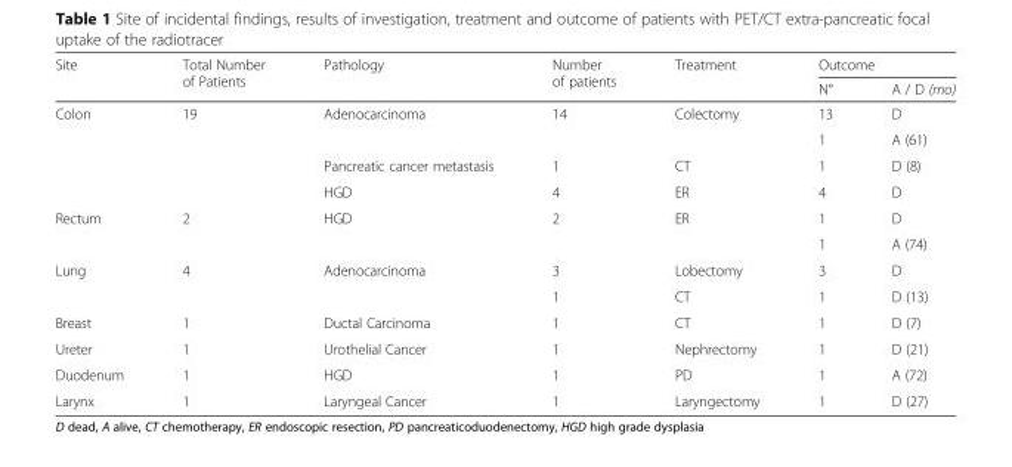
<table><thead><tr><td rowspan="2">Site</td><td rowspan="2">Total Number of Patients</td><td rowspan="2">Pathology</td><td rowspan="2">Number of patients</td><td rowspan="2">Treatment</td><td colspan="2">Outcome</td></tr><tr><td>N°</td><td>A / D (mo)</td></tr></thead><tbody><tr><td rowspan="4">Colon</td><td rowspan="4">19</td><td rowspan="2">Adenocarcinoma</td><td rowspan="2">14</td><td rowspan="2">Colectomy</td><td>13</td><td>D</td></tr><tr><td>1</td><td>A (61)</td></tr><tr><td>Pancreatic cancer metastasis</td><td>1</td><td>CT</td><td>1</td><td>D (8)</td></tr><tr><td>HGD</td><td>4</td><td>ER</td><td>4</td><td>D</td></tr><tr><td rowspan="2">Rectum</td><td rowspan="2">2</td><td rowspan="2">HGD</td><td rowspan="2">2</td><td rowspan="2">ER</td><td>1</td><td>D</td></tr><tr><td>1</td><td>A (74)</td></tr><tr><td rowspan="2">Lung</td><td rowspan="2">4</td><td rowspan="2">Adenocarcinoma</td><td>3</td><td>Lobectomy</td><td>3</td><td>D</td></tr><tr><td>1</td><td>CT</td><td>1</td><td>D (13)</td></tr><tr><td>Breast</td><td>1</td><td>Ductal Carcinoma</td><td>1</td><td>CT</td><td>1</td><td>D (7)</td></tr><tr><td>Ureter</td><td>1</td><td>Urothelial Cancer</td><td>1</td><td>Nephrectomy</td><td>1</td><td>D (21)</td></tr><tr><td>Duodenum</td><td>1</td><td>HGD</td><td>1</td><td>PD</td><td>1</td><td>A (72)</td></tr><tr><td>Larynx</td><td>1</td><td>Laryngeal Cancer</td><td>1</td><td>Laryngectomy</td><td>1</td><td>D (27)</td></tr></tbody></table>